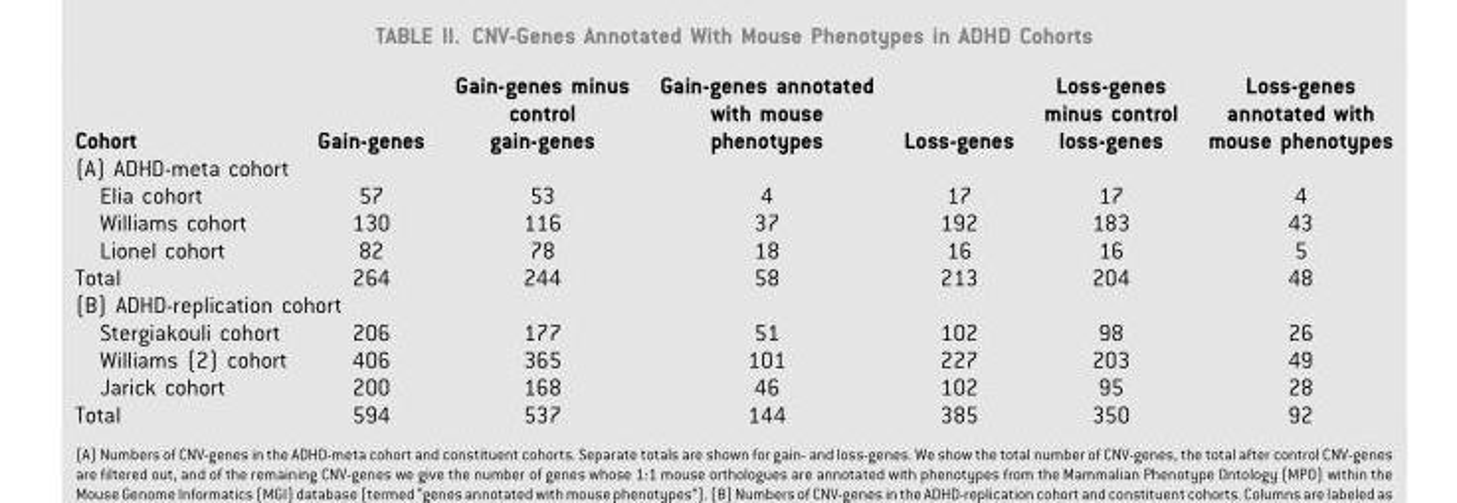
<table><thead><tr><td>Cohort</td><td>Gain-genes</td><td>Gain-genes minus control gain-genes</td><td>Gain-genes annotated with mouse phenotypes</td><td>Loss-genes</td><td>Loss-genes minus control loss-genes</td><td>Loss-genes annotated with mouse phenotypes</td></tr></thead><tbody><tr><td colspan="7">(A) ADHD-meta cohort</td></tr><tr><td>Elia cohort</td><td>57</td><td>53</td><td>4</td><td>17</td><td>17</td><td>4</td></tr><tr><td>Williams cohort</td><td>130</td><td>116</td><td>37</td><td>192</td><td>183</td><td>43</td></tr><tr><td>Lionel cohort</td><td>82</td><td>78</td><td>18</td><td>16</td><td>16</td><td>5</td></tr><tr><td>Total</td><td>264</td><td>244</td><td>58</td><td>213</td><td>204</td><td>48</td></tr><tr><td colspan="7">(B) ADHD-replication cohort</td></tr><tr><td>Stergiakouli cohort</td><td>206</td><td>177</td><td>51</td><td>102</td><td>98</td><td>26</td></tr><tr><td>Williams (2) cohort</td><td>406</td><td>365</td><td>101</td><td>227</td><td>203</td><td>49</td></tr><tr><td>Jarick cohort</td><td>200</td><td>168</td><td>46</td><td>102</td><td>95</td><td>28</td></tr><tr><td>Total</td><td>594</td><td>537</td><td>144</td><td>385</td><td>350</td><td>92</td></tr></tbody></table>